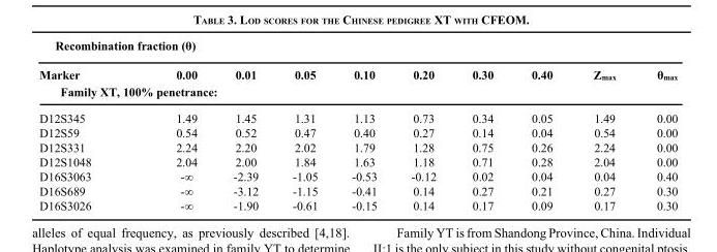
<table><thead><tr><td colspan="10">Recombination fraction (θ)</td></tr><tr><td>Marker</td><td>0.00</td><td>0.01</td><td>0.05</td><td>0.10</td><td>0.20</td><td>0.30</td><td>0.40</td><td>Z<sub>max</sub></td><td>θ<sub>max</sub></td></tr></thead><tbody><tr><td colspan="10">Family XT, 100% penetrance:</td></tr><tr><td>D12S345</td><td>1.49</td><td>1.45</td><td>1.31</td><td>1.13</td><td>0.73</td><td>0.34</td><td>0.05</td><td>1.49</td><td>0.00</td></tr><tr><td>D12S59</td><td>0.54</td><td>0.52</td><td>0.47</td><td>0.40</td><td>0.27</td><td>0.14</td><td>0.04</td><td>0.54</td><td>0.00</td></tr><tr><td>D12S331</td><td>2.24</td><td>2.20</td><td>2.02</td><td>1.79</td><td>1.28</td><td>0.75</td><td>0.26</td><td>2.24</td><td>0.00</td></tr><tr><td>D12S1048</td><td>2.04</td><td>2.00</td><td>1.84</td><td>1.63</td><td>1.18</td><td>0.71</td><td>0.28</td><td>2.04</td><td>0.00</td></tr><tr><td>D16S3063</td><td>-∞</td><td>-2.39</td><td>-1.05</td><td>-0.53</td><td>-0.12</td><td>0.02</td><td>0.04</td><td>0.04</td><td>0.40</td></tr><tr><td>D16S689</td><td>-∞</td><td>-3.12</td><td>-1.15</td><td>-0.41</td><td>0.14</td><td>0.27</td><td>0.21</td><td>0.27</td><td>0.30</td></tr><tr><td>D16S3026</td><td>-∞</td><td>-1.90</td><td>-0.61</td><td>-0.15</td><td>0.14</td><td>0.17</td><td>0.09</td><td>0.17</td><td>0.30</td></tr></tbody></table>